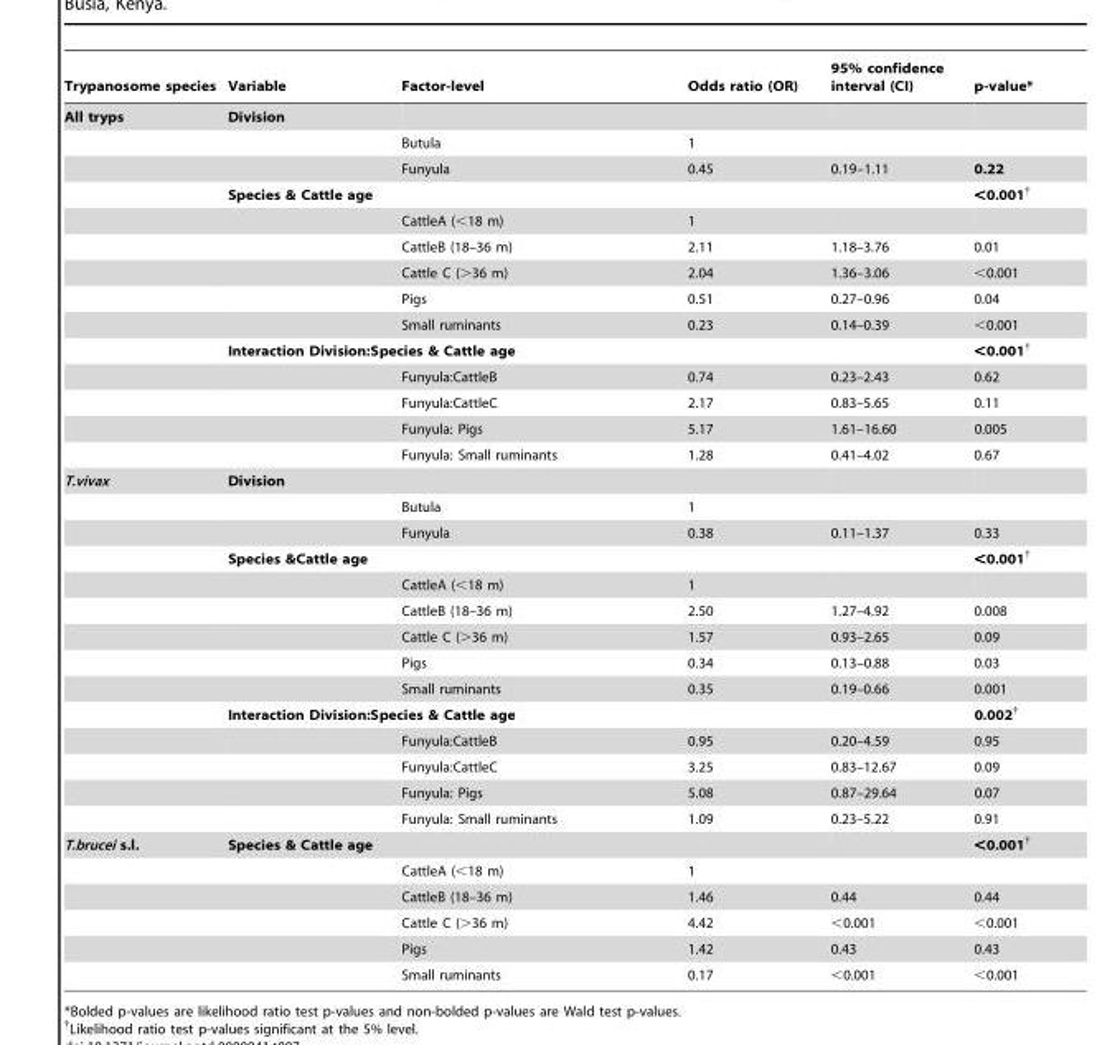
<table><thead><tr><td>Trypanosome species</td><td>Variable</td><td>Factor-level</td><td>Odds ratio (OR)</td><td>95% confidence interval (CI)</td><td>p-value*</td></tr></thead><tbody><tr><td rowspan="14">All tryps</td><td>Division</td><td></td><td></td><td></td><td></td></tr><tr><td></td><td>Butula</td><td>1</td><td></td><td></td></tr><tr><td></td><td>Funyula</td><td>0.45</td><td>0.19–1.11</td><td>0.22</td></tr><tr><td colspan="2">Species &amp; Cattle age</td><td></td><td></td><td>&lt;0.001†</td></tr><tr><td></td><td>CattleA (&lt;18 m)</td><td>1</td><td></td><td></td></tr><tr><td></td><td>CattleB (18–36 m)</td><td>2.11</td><td>1.18–3.76</td><td>0.01</td></tr><tr><td></td><td>Cattle C (&gt;36 m)</td><td>2.04</td><td>1.36–3.06</td><td>&lt;0.001</td></tr><tr><td></td><td>Pigs</td><td>0.51</td><td>0.27–0.96</td><td>0.04</td></tr><tr><td></td><td>Small ruminants</td><td>0.23</td><td>0.14–0.39</td><td>&lt;0.001</td></tr><tr><td colspan="2">Interaction Division:Species &amp; Cattle age</td><td></td><td></td><td>&lt;0.001†</td></tr><tr><td></td><td>Funyula:CattleB</td><td>0.74</td><td>0.23–2.43</td><td>0.62</td></tr><tr><td></td><td>Funyula:CattleC</td><td>2.17</td><td>0.83–5.65</td><td>0.11</td></tr><tr><td></td><td>Funyula: Pigs</td><td>5.17</td><td>1.61–16.60</td><td>0.005</td></tr><tr><td></td><td>Funyula: Small ruminants</td><td>1.28</td><td>0.41–4.02</td><td>0.67</td></tr><tr><td rowspan="14">T.vivax</td><td colspan="2">Division</td><td></td><td></td><td></td></tr><tr><td></td><td>Butula</td><td>1</td><td></td><td></td></tr><tr><td></td><td>Funyula</td><td>0.38</td><td>0.11–1.37</td><td>0.33</td></tr><tr><td colspan="2">Species &amp;Cattle age</td><td></td><td></td><td>&lt;0.001†</td></tr><tr><td></td><td>CattleA (&lt;18 m)</td><td>1</td><td></td><td></td></tr><tr><td></td><td>CattleB (18–36 m)</td><td>2.50</td><td>1.27–4.92</td><td>0.008</td></tr><tr><td></td><td>Cattle C (&gt;36 m)</td><td>1.57</td><td>0.93–2.65</td><td>0.09</td></tr><tr><td></td><td>Pigs</td><td>0.34</td><td>0.13–0.88</td><td>0.03</td></tr><tr><td></td><td>Small ruminants</td><td>0.35</td><td>0.19–0.66</td><td>0.001</td></tr><tr><td colspan="2">Interaction Division:Species &amp; Cattle age</td><td></td><td></td><td>0.002†</td></tr><tr><td></td><td>Funyula:CattleB</td><td>0.95</td><td>0.20–4.59</td><td>0.95</td></tr><tr><td></td><td>Funyula:CattleC</td><td>3.25</td><td>0.83–12.67</td><td>0.09</td></tr><tr><td></td><td>Funyula: Pigs</td><td>5.08</td><td>0.87–29.64</td><td>0.07</td></tr><tr><td></td><td>Funyula: Small ruminants</td><td>1.09</td><td>0.23–5.22</td><td>0.91</td></tr><tr><td rowspan="6">T.brucei s.l.</td><td colspan="2">Species &amp; Cattle age</td><td></td><td></td><td>&lt;0.001†</td></tr><tr><td></td><td>CattleA (&lt;18 m)</td><td>1</td><td></td><td></td></tr><tr><td></td><td>CattleB (18–36 m)</td><td>1.46</td><td>0.44</td><td>0.44</td></tr><tr><td></td><td>Cattle C (&gt;36 m)</td><td>4.42</td><td>&lt;0.001</td><td>&lt;0.001</td></tr><tr><td></td><td>Pigs</td><td>1.42</td><td>0.43</td><td>0.43</td></tr><tr><td></td><td>Small ruminants</td><td>0.17</td><td>&lt;0.001</td><td>&lt;0.001</td></tr></tbody></table>